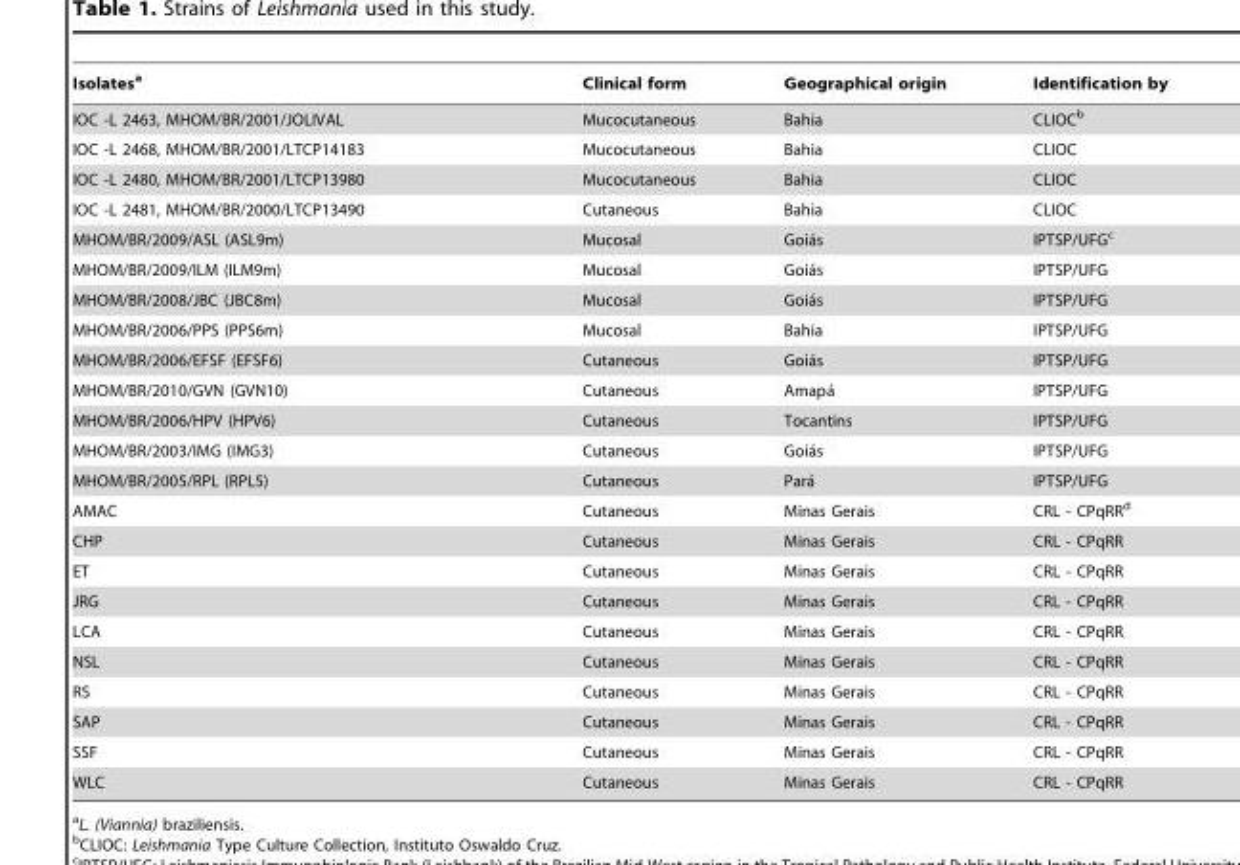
<table><thead><tr><td>Isolates<sup>a</sup></td><td>Clinical form</td><td>Geographical origin</td><td>Identification by</td></tr></thead><tbody><tr><td>IOC -L 2463, MHOM/BR/2001/JOLIVAL</td><td>Mucocutaneous</td><td>Bahia</td><td>CLIOC<sup>b</sup></td></tr><tr><td>IOC -L 2468, MHOM/BR/2001/LTCP14183</td><td>Mucocutaneous</td><td>Bahia</td><td>CLIOC</td></tr><tr><td>IOC -L 2480, MHOM/BR/2001/LTCP13980</td><td>Mucocutaneous</td><td>Bahia</td><td>CLIOC</td></tr><tr><td>IOC -L 2481, MHOM/BR/2000/LTCP13490</td><td>Cutaneous</td><td>Bahia</td><td>CLIOC</td></tr><tr><td>MHOM/BR/2009/ASL (ASL9m)</td><td>Mucosal</td><td>Goia´s</td><td>IPTSP/UFG<sup>c</sup></td></tr><tr><td>MHOM/BR/2009/ILM (ILM9m)</td><td>Mucosal</td><td>Goia´s</td><td>IPTSP/UFG</td></tr><tr><td>MHOM/BR/2008/JBC (JBC8m)</td><td>Mucosal</td><td>Goia´s</td><td>IPTSP/UFG</td></tr><tr><td>MHOM/BR/2006/PPS (PPS6m)</td><td>Mucosal</td><td>Bahia</td><td>IPTSP/UFG</td></tr><tr><td>MHOM/BR/2006/EFSF (EFSF6)</td><td>Cutaneous</td><td>Goia´s</td><td>IPTSP/UFG</td></tr><tr><td>MHOM/BR/2010/GVN (GVN10)</td><td>Cutaneous</td><td>Amapa´</td><td>IPTSP/UFG</td></tr><tr><td>MHOM/BR/2006/HPV (HPV6)</td><td>Cutaneous</td><td>Tocantins</td><td>IPTSP/UFG</td></tr><tr><td>MHOM/BR/2003/IMG (IMG3)</td><td>Cutaneous</td><td>Goia´s</td><td>IPTSP/UFG</td></tr><tr><td>MHOM/BR/2005/RPL (RPL5)</td><td>Cutaneous</td><td>Para´</td><td>IPTSP/UFG</td></tr><tr><td>AMAC</td><td>Cutaneous</td><td>Minas Gerais</td><td>CRL - CPqRR<sup>d</sup></td></tr><tr><td>CHP</td><td>Cutaneous</td><td>Minas Gerais</td><td>CRL - CPqRR</td></tr><tr><td>ET</td><td>Cutaneous</td><td>Minas Gerais</td><td>CRL - CPqRR</td></tr><tr><td>JRG</td><td>Cutaneous</td><td>Minas Gerais</td><td>CRL - CPqRR</td></tr><tr><td>LCA</td><td>Cutaneous</td><td>Minas Gerais</td><td>CRL - CPqRR</td></tr><tr><td>NSL</td><td>Cutaneous</td><td>Minas Gerais</td><td>CRL - CPqRR</td></tr><tr><td>RS</td><td>Cutaneous</td><td>Minas Gerais</td><td>CRL - CPqRR</td></tr><tr><td>SAP</td><td>Cutaneous</td><td>Minas Gerais</td><td>CRL - CPqRR</td></tr><tr><td>SSF</td><td>Cutaneous</td><td>Minas Gerais</td><td>CRL - CPqRR</td></tr><tr><td>WLC</td><td>Cutaneous</td><td>Minas Gerais</td><td>CRL - CPqRR</td></tr></tbody></table>